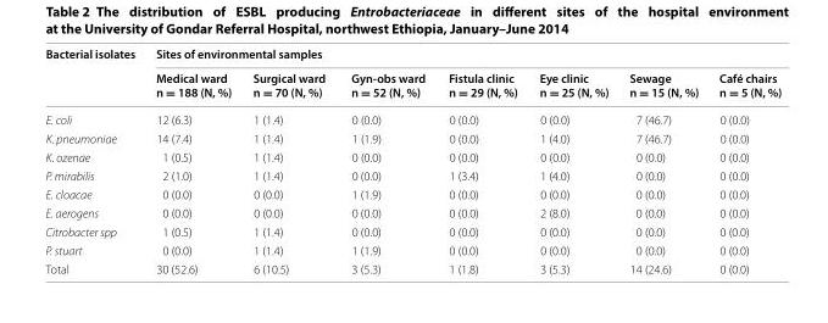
<table><thead><tr><td rowspan="2">Bacterial isolates</td><td colspan="7">Sites of environmental samples</td></tr><tr><td>Medical ward n = 188 (N, %)</td><td>Surgical ward n = 70 (N, %)</td><td>Gyn-obs ward n = 52 (N, %)</td><td>Fistula clinic n = 29 (N, %)</td><td>Eye clinic n = 25 (N, %)</td><td>Sewage n = 15 (N, %)</td><td>Café chairs n = 5 (N, %)</td></tr></thead><tbody><tr><td>E. coli</td><td>12 (6.3)</td><td>1 (1.4)</td><td>0 (0.0)</td><td>0 (0.0)</td><td>0 (0.0)</td><td>7 (46.7)</td><td>0 (0.0)</td></tr><tr><td>K. pneumoniae</td><td>14 (7.4)</td><td>1 (1.4)</td><td>1 (1.9)</td><td>0 (0.0)</td><td>1 (4.0)</td><td>7 (46.7)</td><td>0 (0.0)</td></tr><tr><td>K. ozenae</td><td>1 (0.5)</td><td>1 (1.4)</td><td>0 (0.0)</td><td>0 (0.0)</td><td>0 (0.0)</td><td>0 (0.0)</td><td>0 (0.0)</td></tr><tr><td>P. mirabilis</td><td>2 (1.0)</td><td>1 (1.4)</td><td>0 (0.0)</td><td>1 (3.4)</td><td>1 (4.0)</td><td>0 (0.0)</td><td>0 (0.0)</td></tr><tr><td>E. cloacae</td><td>0 (0.0)</td><td>0 (0.0)</td><td>1 (1.9)</td><td>0 (0.0)</td><td>0 (0.0)</td><td>0 (0.0)</td><td>0 (0.0)</td></tr><tr><td>E. aerogens</td><td>0 (0.0)</td><td>0 (0.0)</td><td>0 (0.0)</td><td>0 (0.0)</td><td>2 (8.0)</td><td>0 (0.0)</td><td>0 (0.0)</td></tr><tr><td>Citrobacter spp</td><td>1 (0.5)</td><td>1 (1.4)</td><td>0 (0.0)</td><td>0 (0.0)</td><td>0 (0.0)</td><td>0 (0.0)</td><td>0 (0.0)</td></tr><tr><td>P. stuart</td><td>0 (0.0)</td><td>1 (1.4)</td><td>1 (1.9)</td><td>0 (0.0)</td><td>0 (0.0)</td><td>0 (0.0)</td><td>0 (0.0)</td></tr><tr><td>Total</td><td>30 (52.6)</td><td>6 (10.5)</td><td>3 (5.3)</td><td>1 (1.8)</td><td>3 (5.3)</td><td>14 (24.6)</td><td>0 (0.0)</td></tr></tbody></table>